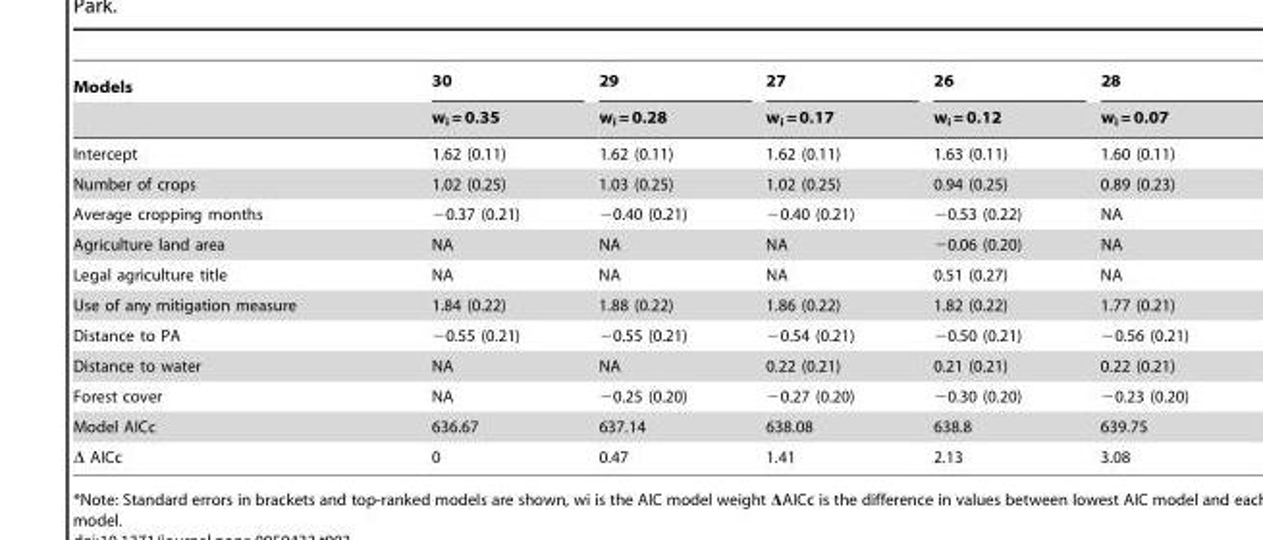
<table><thead><tr><td rowspan="2">Models</td><td rowspan="2">30 w<sub>i</sub> = 0.35</td><td rowspan="2">29 w<sub>i</sub> = 0.28</td><td rowspan="2">27 w<sub>i</sub> = 0.17</td><td rowspan="2">26 w<sub>i</sub> = 0.12</td><td rowspan="2">28 w<sub>i</sub> = 0.07</td></tr><tr></tr></thead><tbody><tr><td>Intercept</td><td>1.62 (0.11)</td><td>1.62 (0.11)</td><td>1.62 (0.11)</td><td>1.63 (0.11)</td><td>1.60 (0.11)</td></tr><tr><td>Number of crops</td><td>1.02 (0.25)</td><td>1.03 (0.25)</td><td>1.02 (0.25)</td><td>0.94 (0.25)</td><td>0.89 (0.23)</td></tr><tr><td>Average cropping months</td><td>−0.37 (0.21)</td><td>−0.40 (0.21)</td><td>−0.40 (0.21)</td><td>−0.53 (0.22)</td><td>NA</td></tr><tr><td>Agriculture land area</td><td>NA</td><td>NA</td><td>NA</td><td>−0.06 (0.20)</td><td>NA</td></tr><tr><td>Legal agriculture title</td><td>NA</td><td>NA</td><td>NA</td><td>0.51 (0.27)</td><td>NA</td></tr><tr><td>Use of any mitigation measure</td><td>1.84 (0.22)</td><td>1.88 (0.22)</td><td>1.86 (0.22)</td><td>1.82 (0.22)</td><td>1.77 (0.21)</td></tr><tr><td>Distance to PA</td><td>−0.55 (0.21)</td><td>−0.55 (0.21)</td><td>−0.54 (0.21)</td><td>−0.50 (0.21)</td><td>−0.56 (0.21)</td></tr><tr><td>Distance to water</td><td>NA</td><td>NA</td><td>0.22 (0.21)</td><td>0.21 (0.21)</td><td>0.22 (0.21)</td></tr><tr><td>Forest cover</td><td>NA</td><td>−0.25 (0.20)</td><td>−0.27 (0.20)</td><td>−0.30 (0.20)</td><td>−0.23 (0.20)</td></tr><tr><td>Model AICc</td><td>636.67</td><td>637.14</td><td>638.08</td><td>638.8</td><td>639.75</td></tr><tr><td>Δ AICc</td><td>0</td><td>0.47</td><td>1.41</td><td>2.13</td><td>3.08</td></tr></tbody></table>